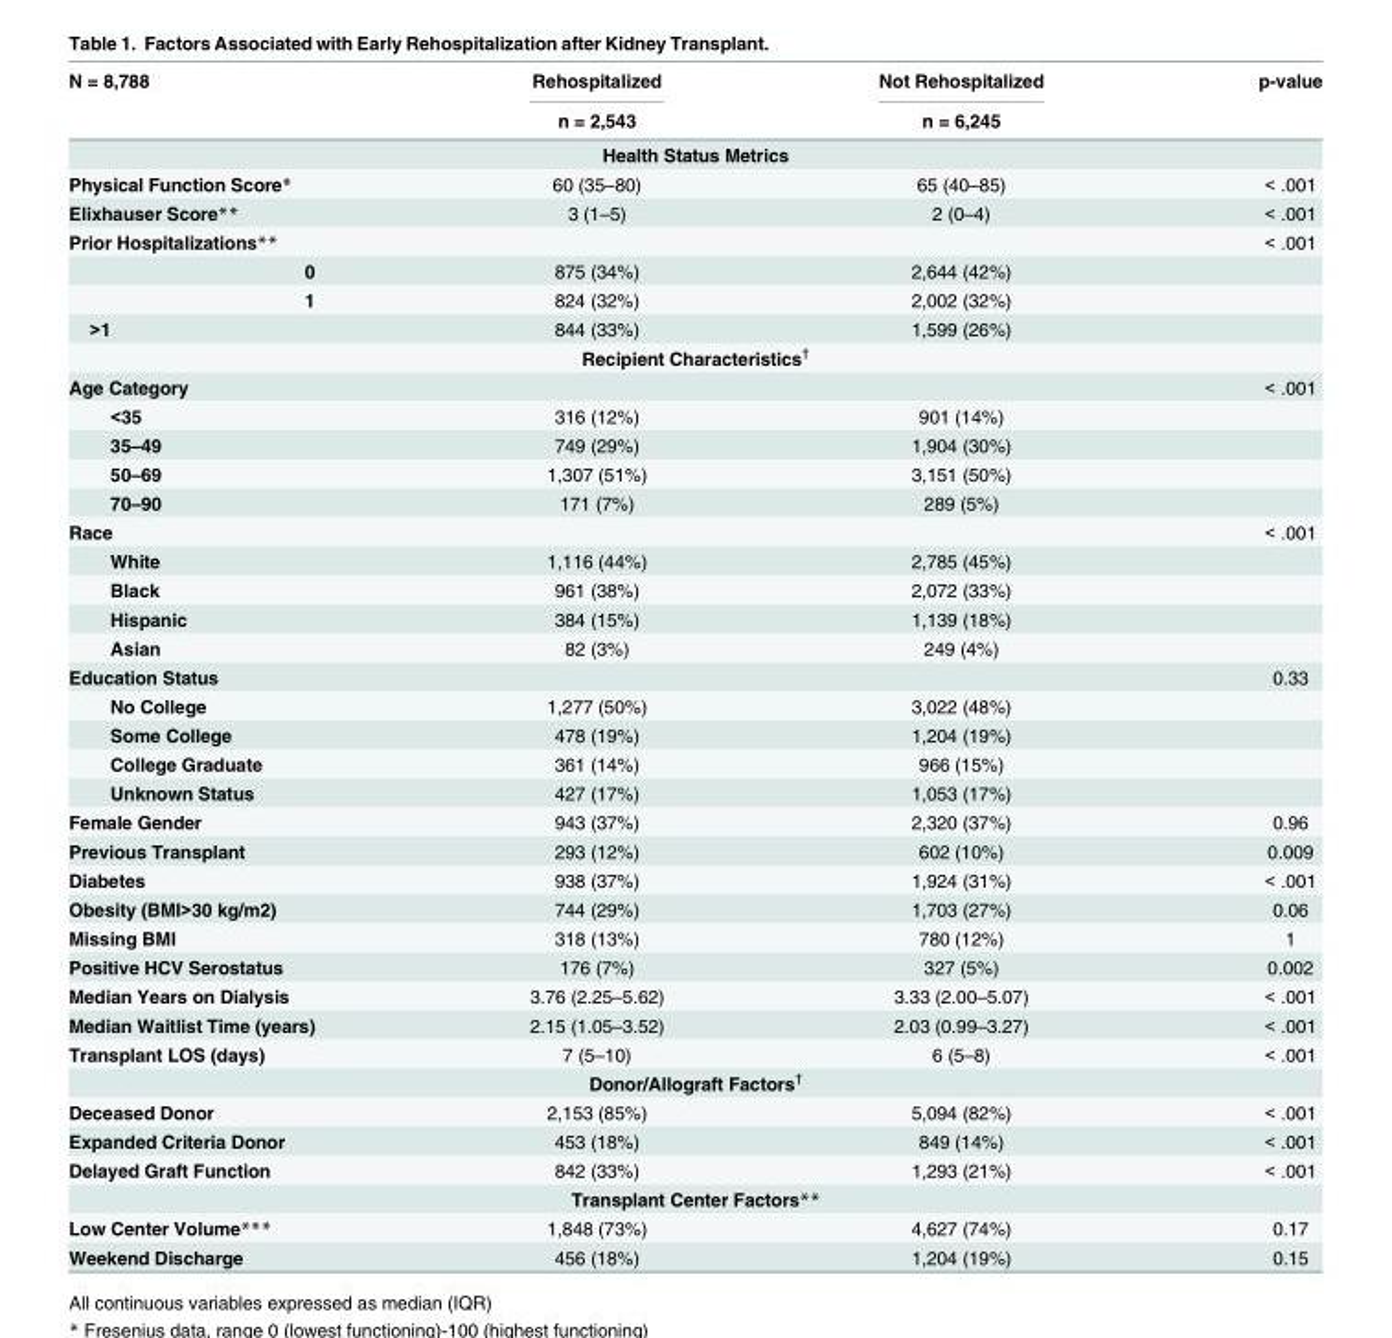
<table><thead><tr><td rowspan="2">N = 8,788</td><td rowspan="2">Rehospitalized n = 2,543</td><td rowspan="2">Not Rehospitalized n = 6,245</td><td rowspan="2">p-value</td></tr><tr></tr></thead><tbody><tr><td colspan="4">Health Status Metrics</td></tr><tr><td>Physical Function Score*</td><td>60 (35–80)</td><td>65 (40–85)</td><td>&lt; .001</td></tr><tr><td>Elixhauser Score**</td><td>3 (1–5)</td><td>2 (0–4)</td><td>&lt; .001</td></tr><tr><td>Prior Hospitalizations**</td><td></td><td></td><td>&lt; .001</td></tr><tr><td>0</td><td>875 (34%)</td><td>2,644 (42%)</td><td></td></tr><tr><td>1</td><td>824 (32%)</td><td>2,002 (32%)</td><td></td></tr><tr><td>&gt;1</td><td>844 (33%)</td><td>1,599 (26%)</td><td></td></tr><tr><td colspan="4">Recipient Characteristics<sup>†</sup></td></tr><tr><td>Age Category</td><td></td><td></td><td>&lt; .001</td></tr><tr><td>&lt;35</td><td>316 (12%)</td><td>901 (14%)</td><td></td></tr><tr><td>35–49</td><td>749 (29%)</td><td>1,904 (30%)</td><td></td></tr><tr><td>50–69</td><td>1,307 (51%)</td><td>3,151 (50%)</td><td></td></tr><tr><td>70–90</td><td>171 (7%)</td><td>289 (5%)</td><td></td></tr><tr><td>Race</td><td></td><td></td><td>&lt; .001</td></tr><tr><td>White</td><td>1,116 (44%)</td><td>2,785 (45%)</td><td></td></tr><tr><td>Black</td><td>961 (38%)</td><td>2,072 (33%)</td><td></td></tr><tr><td>Hispanic</td><td>384 (15%)</td><td>1,139 (18%)</td><td></td></tr><tr><td>Asian</td><td>82 (3%)</td><td>249 (4%)</td><td></td></tr><tr><td>Education Status</td><td></td><td></td><td>0.33</td></tr><tr><td>No College</td><td>1,277 (50%)</td><td>3,022 (48%)</td><td></td></tr><tr><td>Some College</td><td>478 (19%)</td><td>1,204 (19%)</td><td></td></tr><tr><td>College Graduate</td><td>361 (14%)</td><td>966 (15%)</td><td></td></tr><tr><td>Unknown Status</td><td>427 (17%)</td><td>1,053 (17%)</td><td></td></tr><tr><td>Female Gender</td><td>943 (37%)</td><td>2,320 (37%)</td><td>0.96</td></tr><tr><td>Previous Transplant</td><td>293 (12%)</td><td>602 (10%)</td><td>0.009</td></tr><tr><td>Diabetes</td><td>938 (37%)</td><td>1,924 (31%)</td><td>&lt; .001</td></tr><tr><td>Obesity (BMI&gt;30 kg/m2)</td><td>744 (29%)</td><td>1,703 (27%)</td><td>0.06</td></tr><tr><td>Missing BMI</td><td>318 (13%)</td><td>780 (12%)</td><td>1</td></tr><tr><td>Positive HCV Serostatus</td><td>176 (7%)</td><td>327 (5%)</td><td>0.002</td></tr><tr><td>Median Years on Dialysis</td><td>3.76 (2.25–5.62)</td><td>3.33 (2.00–5.07)</td><td>&lt; .001</td></tr><tr><td>Median Waitlist Time (years)</td><td>2.15 (1.05–3.52)</td><td>2.03 (0.99–3.27)</td><td>&lt; .001</td></tr><tr><td>Transplant LOS (days)</td><td>7 (5–10)</td><td>6 (5–8)</td><td>&lt; .001</td></tr><tr><td colspan="4">Donor/Allograft Factors<sup>†</sup></td></tr><tr><td>Deceased Donor</td><td>2,153 (85%)</td><td>5,094 (82%)</td><td>&lt; .001</td></tr><tr><td>Expanded Criteria Donor</td><td>453 (18%)</td><td>849 (14%)</td><td>&lt; .001</td></tr><tr><td>Delayed Graft Function</td><td>842 (33%)</td><td>1,293 (21%)</td><td>&lt; .001</td></tr><tr><td colspan="4">Transplant Center Factors**</td></tr><tr><td>Low Center Volume***</td><td>1,848 (73%)</td><td>4,627 (74%)</td><td>0.17</td></tr><tr><td>Weekend Discharge</td><td>456 (18%)</td><td>1,204 (19%)</td><td>0.15</td></tr></tbody></table>